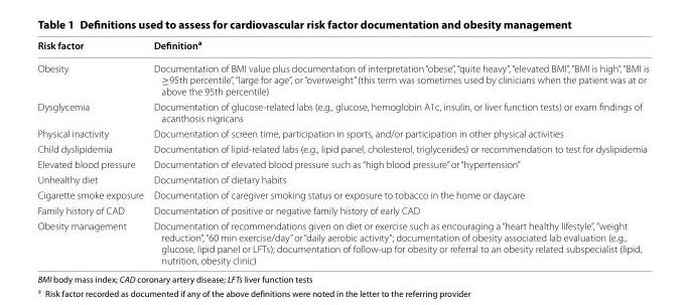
<table><thead><tr><td>Risk factor</td><td>Definition<sup>a</sup></td></tr></thead><tbody><tr><td>Obesity</td><td>Documentation of BMI value plus documentation of interpretation “obese”, “quite heavy”, “elevated BMI”, “BMI is high”, “BMI is ≥95th percentile”, “large for age”, or “overweight” (this term was sometimes used by clinicians when the patient was at or above the 95th percentile)</td></tr><tr><td>Dysglycemia</td><td>Documentation of glucose-related labs (e.g., glucose, hemoglobin A1c, insulin, or liver function tests) or exam findings of acanthosis nigricans</td></tr><tr><td>Physical inactivity</td><td>Documentation of screen time, participation in sports, and/or participation in other physical activities</td></tr><tr><td>Child dyslipidemia</td><td>Documentation of lipid-related labs (e.g., lipid panel, cholesterol, triglycerides) or recommendation to test for dyslipidemia</td></tr><tr><td>Elevated blood pressure</td><td>Documentation of elevated blood pressure such as “high blood pressure” or “hypertension”</td></tr><tr><td>Unhealthy diet</td><td>Documentation of dietary habits</td></tr><tr><td>Cigarette smoke exposure</td><td>Documentation of caregiver smoking status or exposure to tobacco in the home or daycare</td></tr><tr><td>Family history of CAD</td><td>Documentation of positive or negative family history of early CAD</td></tr><tr><td>Obesity management</td><td>Documentation of recommendations given on diet or exercise such as encouraging a “heart healthy lifestyle”, “weight reduction”, “60 min exercise/day’’ or “daily aerobic activity’’; documentation of obesity associated lab evaluation (e.g., glucose, lipid panel or LFTs); documentation of follow-up for obesity or referral to an obesity related subspecialist (lipid, nutrition, obesity clinic)</td></tr></tbody></table>